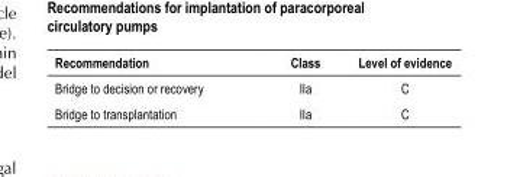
<table><thead><tr><td>Recommendation</td><td>Class</td><td>Level of evidence</td></tr></thead><tbody><tr><td>Bridge to decision or recovery</td><td>IIa</td><td>C</td></tr><tr><td>Bridge to transplantation</td><td>IIa</td><td>C</td></tr></tbody></table>